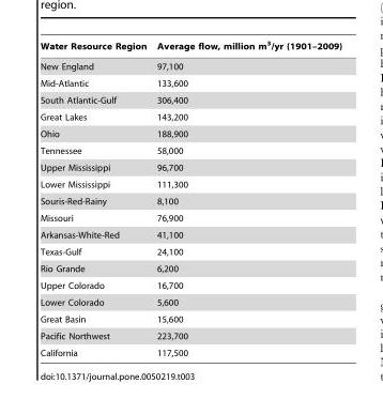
<table><thead><tr><td>Water Resource Region</td><td>Average flow, million m<sup>3</sup>/yr (1901–2009)</td></tr></thead><tbody><tr><td>New England</td><td>97,100</td></tr><tr><td>Mid-Atlantic</td><td>133,600</td></tr><tr><td>South Atlantic-Gulf</td><td>306,400</td></tr><tr><td>Great Lakes</td><td>143,200</td></tr><tr><td>Ohio</td><td>188,900</td></tr><tr><td>Tennessee</td><td>58,000</td></tr><tr><td>Upper Mississippi</td><td>96,700</td></tr><tr><td>Lower Mississippi</td><td>111,300</td></tr><tr><td>Souris-Red-Rainy</td><td>8,100</td></tr><tr><td>Missouri</td><td>76,900</td></tr><tr><td>Arkansas-White-Red</td><td>41,100</td></tr><tr><td>Texas-Gulf</td><td>24,100</td></tr><tr><td>Rio Grande</td><td>6,200</td></tr><tr><td>Upper Colorado</td><td>16,700</td></tr><tr><td>Lower Colorado</td><td>5,600</td></tr><tr><td>Great Basin</td><td>15,600</td></tr><tr><td>Pacific Northwest</td><td>223,700</td></tr><tr><td>California</td><td>117,500</td></tr></tbody></table>